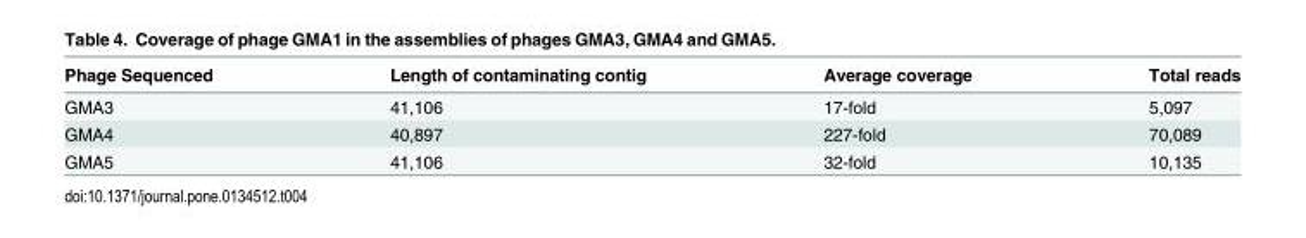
<table><thead><tr><td>Phage Sequenced</td><td>Length of contaminating contig</td><td>Average coverage</td><td>Total reads</td></tr></thead><tbody><tr><td>GMA3</td><td>41,106</td><td>17-fold</td><td>5,097</td></tr><tr><td>GMA4</td><td>40,897</td><td>227-fold</td><td>70,089</td></tr><tr><td>GMA5</td><td>41,106</td><td>32-fold</td><td>10,135</td></tr></tbody></table>